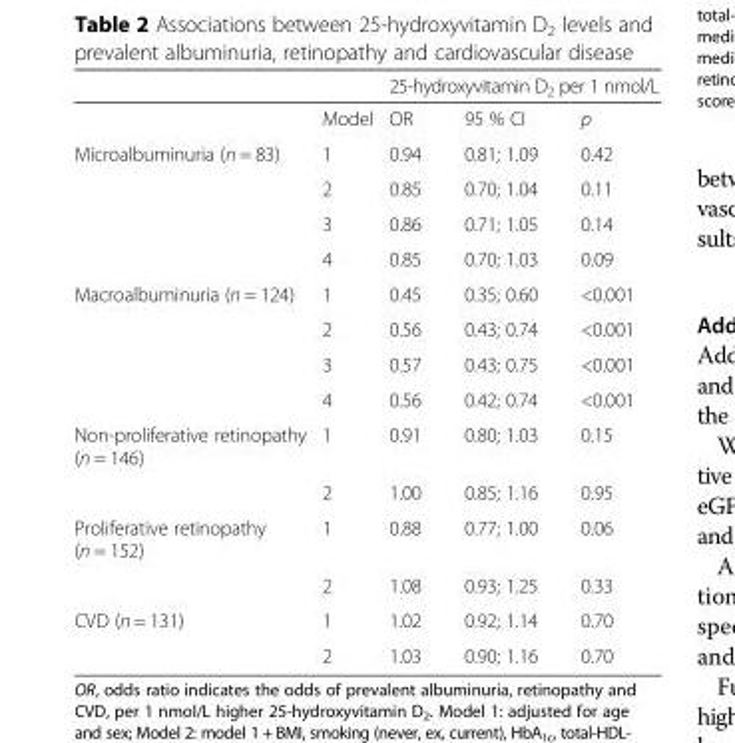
<table><thead><tr><td rowspan="2"></td><td rowspan="2">Model</td><td colspan="3">25-hydroxyvitamin D<sub>2</sub> per 1 nmol/L</td></tr><tr><td>OR</td><td>95 % CI</td><td>p</td></tr></thead><tbody><tr><td rowspan="4">Microalbuminuria (n = 83)</td><td>1</td><td>0.94</td><td>0.81; 1.09</td><td>0.42</td></tr><tr><td>2</td><td>0.85</td><td>0.70; 1.04</td><td>0.11</td></tr><tr><td>3</td><td>0.86</td><td>0.71; 1.05</td><td>0.14</td></tr><tr><td>4</td><td>0.85</td><td>0.70; 1.03</td><td>0.09</td></tr><tr><td rowspan="4">Macroalbuminuria (n = 124)</td><td>1</td><td>0.45</td><td>0.35; 0.60</td><td>&lt;0.001</td></tr><tr><td>2</td><td>0.56</td><td>0.43; 0.74</td><td>&lt;0.001</td></tr><tr><td>3</td><td>0.57</td><td>0.43; 0.75</td><td>&lt;0.001</td></tr><tr><td>4</td><td>0.56</td><td>0.42; 0.74</td><td>&lt;0.001</td></tr><tr><td rowspan="2">Non-proliferative retinopathy (n = 146)</td><td>1</td><td>0.91</td><td>0.80; 1.03</td><td>0.15</td></tr><tr><td>2</td><td>1.00</td><td>0.85; 1.16</td><td>0.95</td></tr><tr><td rowspan="2">Proliferative retinopathy (n = 152)</td><td>1</td><td>0.88</td><td>0.77; 1.00</td><td>0.06</td></tr><tr><td>2</td><td>1.08</td><td>0.93; 1.25</td><td>0.33</td></tr><tr><td rowspan="2">CVD (n = 131)</td><td>1</td><td>1.02</td><td>0.92; 1.14</td><td>0.70</td></tr><tr><td>2</td><td>1.03</td><td>0.90; 1.16</td><td>0.70</td></tr></tbody></table>